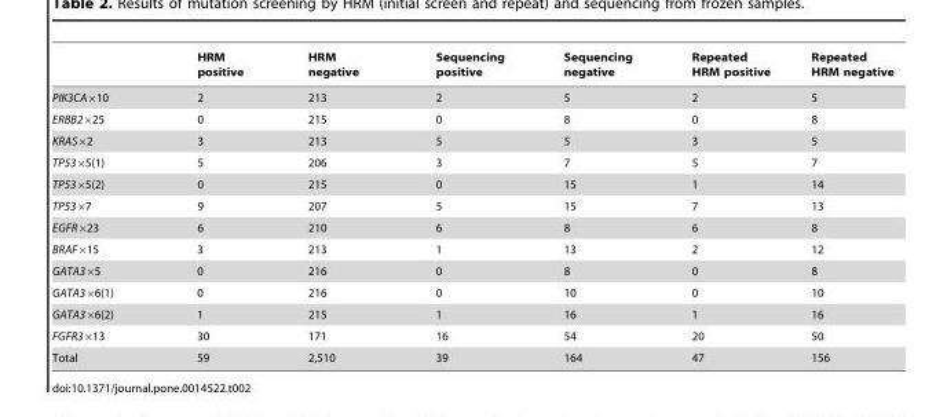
<table><thead><tr><td></td><td>HRM positive</td><td>HRM negative</td><td>Sequencing positive</td><td>Sequencing negative</td><td>Repeated HRM positive</td><td>Repeated HRM negative</td></tr></thead><tbody><tr><td>PIK3CA×10</td><td>2</td><td>213</td><td>2</td><td>5</td><td>2</td><td>5</td></tr><tr><td>ERBB2×25</td><td>0</td><td>215</td><td>0</td><td>8</td><td>0</td><td>8</td></tr><tr><td>KRAS×2</td><td>3</td><td>213</td><td>5</td><td>5</td><td>3</td><td>5</td></tr><tr><td>TP53×5(1)</td><td>5</td><td>206</td><td>3</td><td>7</td><td>5</td><td>7</td></tr><tr><td>TP53×5(2)</td><td>0</td><td>215</td><td>0</td><td>15</td><td>1</td><td>14</td></tr><tr><td>TP53×7</td><td>9</td><td>207</td><td>5</td><td>15</td><td>7</td><td>13</td></tr><tr><td>EGFR×23</td><td>6</td><td>210</td><td>6</td><td>8</td><td>6</td><td>8</td></tr><tr><td>BRAF×15</td><td>3</td><td>213</td><td>1</td><td>13</td><td>2</td><td>12</td></tr><tr><td>GATA3×5</td><td>0</td><td>216</td><td>0</td><td>8</td><td>0</td><td>8</td></tr><tr><td>GATA3×6(1)</td><td>0</td><td>216</td><td>0</td><td>10</td><td>0</td><td>10</td></tr><tr><td>GATA3×6(2)</td><td>1</td><td>215</td><td>1</td><td>16</td><td>1</td><td>16</td></tr><tr><td>FGFR3×13</td><td>30</td><td>171</td><td>16</td><td>54</td><td>20</td><td>50</td></tr><tr><td>Total</td><td>59</td><td>2,510</td><td>39</td><td>164</td><td>47</td><td>156</td></tr></tbody></table>